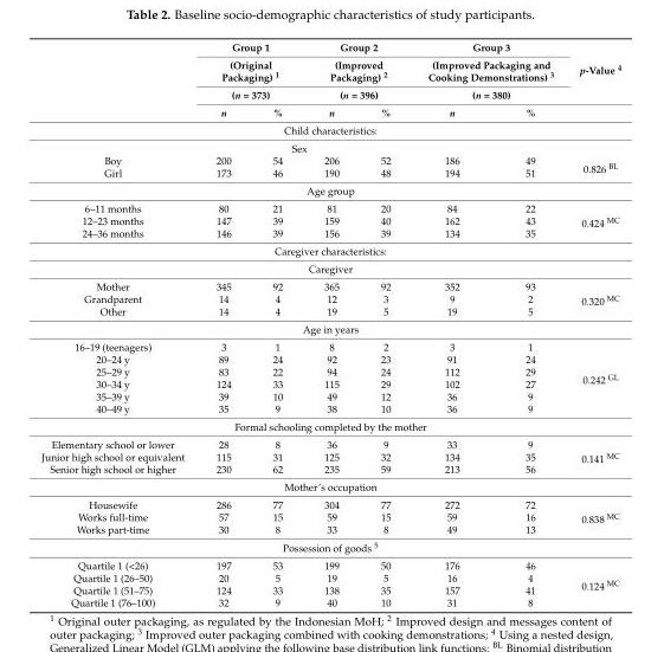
<table><thead><tr><td rowspan="4"></td><td rowspan="3" colspan="2">Group 1 (Original Packaging) <sup>1</sup> (n = 373)</td><td rowspan="3" colspan="2">Group 2 (Improved Packaging) <sup>2</sup> (n = 396)</td><td rowspan="3" colspan="2">Group 3 (Improved Packaging and Cooking Demonstrations) <sup>3</sup> (n = 380)</td><td rowspan="4">p-Value <sup>4</sup></td></tr><tr></tr><tr></tr><tr><td>n</td><td>%</td><td>n</td><td>%</td><td>n</td><td>%</td></tr></thead><tbody><tr><td colspan="8">Child characteristics:</td></tr><tr><td colspan="8">Sex</td></tr><tr><td>Boy</td><td>200</td><td>54</td><td>206</td><td>52</td><td>186</td><td>49</td><td rowspan="2">0.826 <sup>BL</sup></td></tr><tr><td>Girl</td><td>173</td><td>46</td><td>190</td><td>48</td><td>194</td><td>51</td></tr><tr><td colspan="8">Age group</td></tr><tr><td>6–11 months</td><td>80</td><td>21</td><td>81</td><td>20</td><td>84</td><td>22</td><td rowspan="3">0.424 <sup>MC</sup></td></tr><tr><td>12–23 months</td><td>147</td><td>39</td><td>159</td><td>40</td><td>162</td><td>43</td></tr><tr><td>24–36 months</td><td>146</td><td>39</td><td>156</td><td>39</td><td>134</td><td>35</td></tr><tr><td colspan="8">Caregiver characteristics:</td></tr><tr><td colspan="8">Caregiver</td></tr><tr><td>Mother</td><td>345</td><td>92</td><td>365</td><td>92</td><td>352</td><td>93</td><td rowspan="3">0.320 <sup>MC</sup></td></tr><tr><td>Grandparent</td><td>14</td><td>4</td><td>12</td><td>3</td><td>9</td><td>2</td></tr><tr><td>Other</td><td>14</td><td>4</td><td>19</td><td>5</td><td>19</td><td>5</td></tr><tr><td colspan="8">Age in years</td></tr><tr><td>16–19 (teenagers)</td><td>3</td><td>1</td><td>8</td><td>2</td><td>3</td><td>1</td><td rowspan="6">0.242 <sup>GL</sup></td></tr><tr><td>20–24 y</td><td>89</td><td>24</td><td>92</td><td>23</td><td>91</td><td>24</td></tr><tr><td>25–29 y</td><td>83</td><td>22</td><td>94</td><td>24</td><td>112</td><td>29</td></tr><tr><td>30–34 y</td><td>124</td><td>33</td><td>115</td><td>29</td><td>102</td><td>27</td></tr><tr><td>35–39 y</td><td>39</td><td>10</td><td>49</td><td>12</td><td>36</td><td>9</td></tr><tr><td>40–49 y</td><td>35</td><td>9</td><td>38</td><td>10</td><td>36</td><td>9</td></tr><tr><td colspan="8">Formal schooling completed by the mother</td></tr><tr><td>Elementary school or lower</td><td>28</td><td>8</td><td>36</td><td>9</td><td>33</td><td>9</td><td rowspan="3">0.141 <sup>MC</sup></td></tr><tr><td>Junior high school or equivalent</td><td>115</td><td>31</td><td>125</td><td>32</td><td>134</td><td>35</td></tr><tr><td>Senior high school or higher</td><td>230</td><td>62</td><td>235</td><td>59</td><td>213</td><td>56</td></tr><tr><td colspan="8">Mother’s occupation</td></tr><tr><td>Housewife</td><td>286</td><td>77</td><td>304</td><td>77</td><td>272</td><td>72</td><td rowspan="3">0.838 <sup>MC</sup></td></tr><tr><td>Works full-time</td><td>57</td><td>15</td><td>59</td><td>15</td><td>59</td><td>16</td></tr><tr><td>Works part-time</td><td>30</td><td>8</td><td>33</td><td>8</td><td>49</td><td>13</td></tr><tr><td colspan="8">Possession of goods <sup>5</sup></td></tr><tr><td>Quartile 1 (&lt;26)</td><td>197</td><td>53</td><td>199</td><td>50</td><td>176</td><td>46</td><td rowspan="4">0.124 <sup>MC</sup></td></tr><tr><td>Quartile 1 (26–50)</td><td>20</td><td>5</td><td>19</td><td>5</td><td>16</td><td>4</td></tr><tr><td>Quartile 1 (51–75)</td><td>124</td><td>33</td><td>138</td><td>35</td><td>157</td><td>41</td></tr><tr><td>Quartile 1 (76–100)</td><td>32</td><td>9</td><td>40</td><td>10</td><td>31</td><td>8</td></tr></tbody></table>